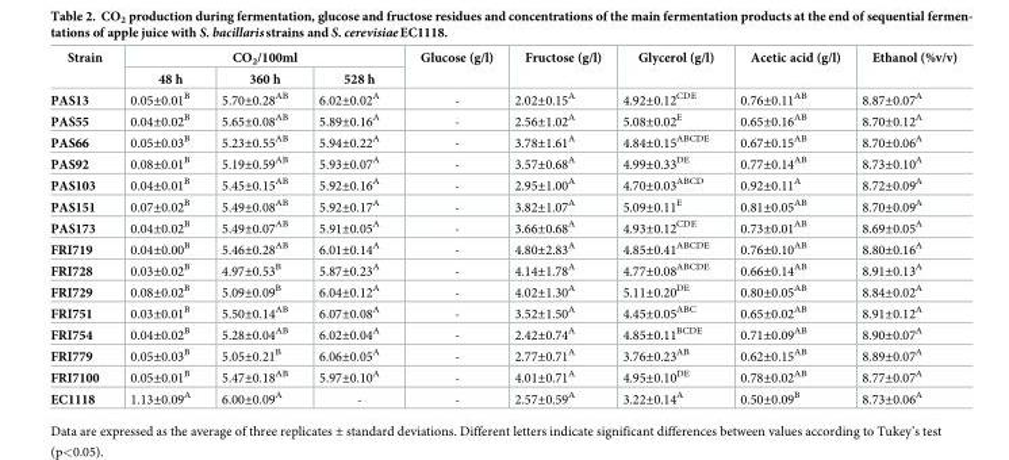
<table><thead><tr><td rowspan="2">Strain</td><td colspan="3">CO<sub>2</sub>/100ml</td><td rowspan="2">Glucose (g/l)</td><td rowspan="2">Fructose (g/l)</td><td rowspan="2">Glycerol (g/l)</td><td rowspan="2">Acetic acid (g/l)</td><td rowspan="2">Ethanol (%v/v)</td></tr><tr><td>48 h</td><td>360 h</td><td>528 h</td></tr></thead><tbody><tr><td>PAS13</td><td>0.05±0.01<sup>B</sup></td><td>5.70±0.28<sup>AB</sup></td><td>6.02±0.02<sup>A</sup></td><td>-</td><td>2.02±0.15<sup>A</sup></td><td>4.92±0.12<sup>CDE</sup></td><td>0.76±0.11<sup>AB</sup></td><td>8.87±0.07<sup>A</sup></td></tr><tr><td>PAS55</td><td>0.04±0.02<sup>B</sup></td><td>5.65±0.08<sup>AB</sup></td><td>5.89±0.16<sup>A</sup></td><td>-</td><td>2.56±1.02<sup>A</sup></td><td>5.08±0.02<sup>E</sup></td><td>0.65±0.16<sup>AB</sup></td><td>8.70±0.12<sup>A</sup></td></tr><tr><td>PAS66</td><td>0.05±0.03<sup>B</sup></td><td>5.23±0.55<sup>AB</sup></td><td>5.94±0.22<sup>A</sup></td><td>-</td><td>3.78±1.61<sup>A</sup></td><td>4.84±0.15<sup>ABCDE</sup></td><td>0.67±0.15<sup>AB</sup></td><td>8.70±0.06<sup>A</sup></td></tr><tr><td>PAS92</td><td>0.08±0.01<sup>B</sup></td><td>5.19±0.59<sup>AB</sup></td><td>5.93±0.07<sup>A</sup></td><td>-</td><td>3.57±0.68<sup>A</sup></td><td>4.99±0.33<sup>DE</sup></td><td>0.77±0.14<sup>AB</sup></td><td>8.73±0.10<sup>A</sup></td></tr><tr><td>PAS103</td><td>0.04±0.01<sup>B</sup></td><td>5.45±0.15<sup>AB</sup></td><td>5.92±0.16<sup>A</sup></td><td>-</td><td>2.95±1.00<sup>A</sup></td><td>4.70±0.03<sup>ABCD</sup></td><td>0.92±0.11<sup>A</sup></td><td>8.72±0.09<sup>A</sup></td></tr><tr><td>PAS151</td><td>0.07±0.02<sup>B</sup></td><td>5.49±0.08<sup>AB</sup></td><td>5.92±0.17<sup>A</sup></td><td>-</td><td>3.82±1.07<sup>A</sup></td><td>5.09±0.11<sup>E</sup></td><td>0.81±0.05<sup>AB</sup></td><td>8.70±0.09<sup>A</sup></td></tr><tr><td>PAS173</td><td>0.04±0.02<sup>B</sup></td><td>5.49±0.07<sup>AB</sup></td><td>5.91±0.05<sup>A</sup></td><td>-</td><td>3.66±0.68<sup>A</sup></td><td>4.93±0.12<sup>CDE</sup></td><td>0.73±0.01<sup>AB</sup></td><td>8.69±0.05<sup>A</sup></td></tr><tr><td>FRI719</td><td>0.04±0.00<sup>B</sup></td><td>5.46±0.28<sup>AB</sup></td><td>6.01±0.14<sup>A</sup></td><td>-</td><td>4.80±2.83<sup>A</sup></td><td>4.85±0.41<sup>ABCDE</sup></td><td>0.76±0.10<sup>AB</sup></td><td>8.80±0.16<sup>A</sup></td></tr><tr><td>FRI728</td><td>0.03±0.02<sup>B</sup></td><td>4.97±0.53<sup>B</sup></td><td>5.87±0.23<sup>A</sup></td><td>-</td><td>4.14±1.78<sup>A</sup></td><td>4.77±0.08<sup>ABCDE</sup></td><td>0.66±0.14<sup>AB</sup></td><td>8.91±0.13<sup>A</sup></td></tr><tr><td>FRI729</td><td>0.08±0.02<sup>B</sup></td><td>5.09±0.09<sup>B</sup></td><td>6.04±0.12<sup>A</sup></td><td>-</td><td>4.02±1.30<sup>A</sup></td><td>5.11±0.20<sup>DE</sup></td><td>0.80±0.05<sup>AB</sup></td><td>8.84±0.02<sup>A</sup></td></tr><tr><td>FRI751</td><td>0.03±0.01<sup>B</sup></td><td>5.50±0.14<sup>AB</sup></td><td>6.07±0.08<sup>A</sup></td><td>-</td><td>3.52±1.50<sup>A</sup></td><td>4.45±0.05<sup>ABC</sup></td><td>0.65±0.02<sup>AB</sup></td><td>8.91±0.12<sup>A</sup></td></tr><tr><td>FRI754</td><td>0.04±0.02<sup>B</sup></td><td>5.28±0.04<sup>AB</sup></td><td>6.02±0.04<sup>A</sup></td><td>-</td><td>2.42±0.74<sup>A</sup></td><td>4.85±0.11<sup>BCDE</sup></td><td>0.71±0.09<sup>AB</sup></td><td>8.90±0.07<sup>A</sup></td></tr><tr><td>FRI779</td><td>0.05±0.03<sup>B</sup></td><td>5.05±0.21<sup>B</sup></td><td>6.06±0.05<sup>A</sup></td><td>-</td><td>2.77±0.71<sup>A</sup></td><td>3.76±0.23<sup>AB</sup></td><td>0.62±0.15<sup>AB</sup></td><td>8.89±0.07<sup>A</sup></td></tr><tr><td>FRI7100</td><td>0.05±0.01<sup>B</sup></td><td>5.47±0.18<sup>AB</sup></td><td>5.97±0.10<sup>A</sup></td><td>-</td><td>4.01±0.71<sup>A</sup></td><td>4.95±0.10<sup>DE</sup></td><td>0.78±0.02<sup>AB</sup></td><td>8.77±0.07<sup>A</sup></td></tr><tr><td>EC1118</td><td>1.13±0.09<sup>A</sup></td><td>6.00±0.09<sup>A</sup></td><td>-</td><td>-</td><td>2.57±0.59<sup>A</sup></td><td>3.22±0.14<sup>A</sup></td><td>0.50±0.09<sup>B</sup></td><td>8.73±0.06<sup>A</sup></td></tr></tbody></table>